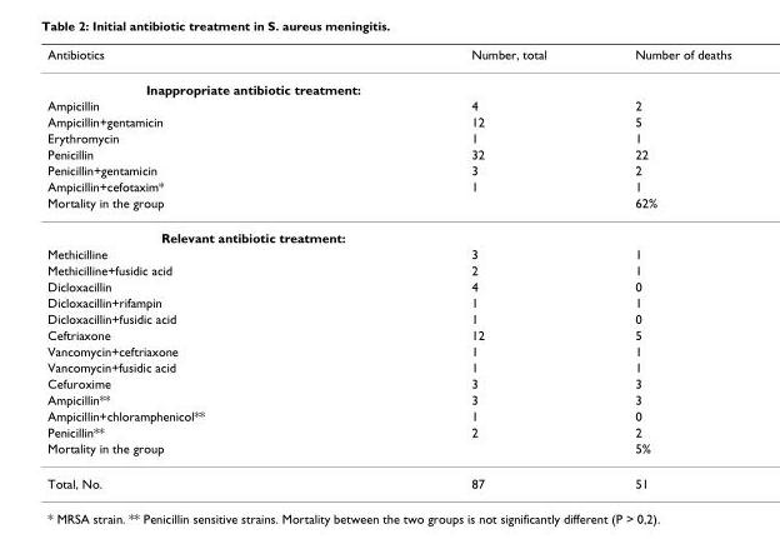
<table><thead><tr><td>Antibiotics</td><td>Number, total</td><td>Number of deaths</td></tr></thead><tbody><tr><td colspan="3">Inappropriate antibiotic treatment:</td></tr><tr><td>Ampicillin</td><td>4</td><td>2</td></tr><tr><td>Ampicillin+gentamicin</td><td>12</td><td>5</td></tr><tr><td>Erythromycin</td><td>1</td><td>1</td></tr><tr><td>Penicillin</td><td>32</td><td>22</td></tr><tr><td>Penicillin+gentamicin</td><td>3</td><td>2</td></tr><tr><td>Ampicillin+cefotaxim*</td><td>1</td><td>1</td></tr><tr><td>Mortality in the group</td><td></td><td>62%</td></tr><tr><td colspan="3">Relevant antibiotic treatment:</td></tr><tr><td>Methicilline</td><td>3</td><td>1</td></tr><tr><td>Methicilline+fusidic acid</td><td>2</td><td>1</td></tr><tr><td>Dicloxacillin</td><td>4</td><td>0</td></tr><tr><td>Dicloxacillin+rifampin</td><td>1</td><td>1</td></tr><tr><td>Dicloxacillin+fusidic acid</td><td>1</td><td>0</td></tr><tr><td>Ceftriaxone</td><td>12</td><td>5</td></tr><tr><td>Vancomycin+ceftriaxone</td><td>1</td><td>1</td></tr><tr><td>Vancomycin+fusidic acid</td><td>1</td><td>1</td></tr><tr><td>Cefuroxime</td><td>3</td><td>3</td></tr><tr><td>Ampicillin**</td><td>3</td><td>3</td></tr><tr><td>Ampicillin+chloramphenicol**</td><td>1</td><td>0</td></tr><tr><td>Penicillin**</td><td>2</td><td>2</td></tr><tr><td>Mortality in the group</td><td></td><td>5%</td></tr><tr><td>Total, No.</td><td>87</td><td>51</td></tr></tbody></table>